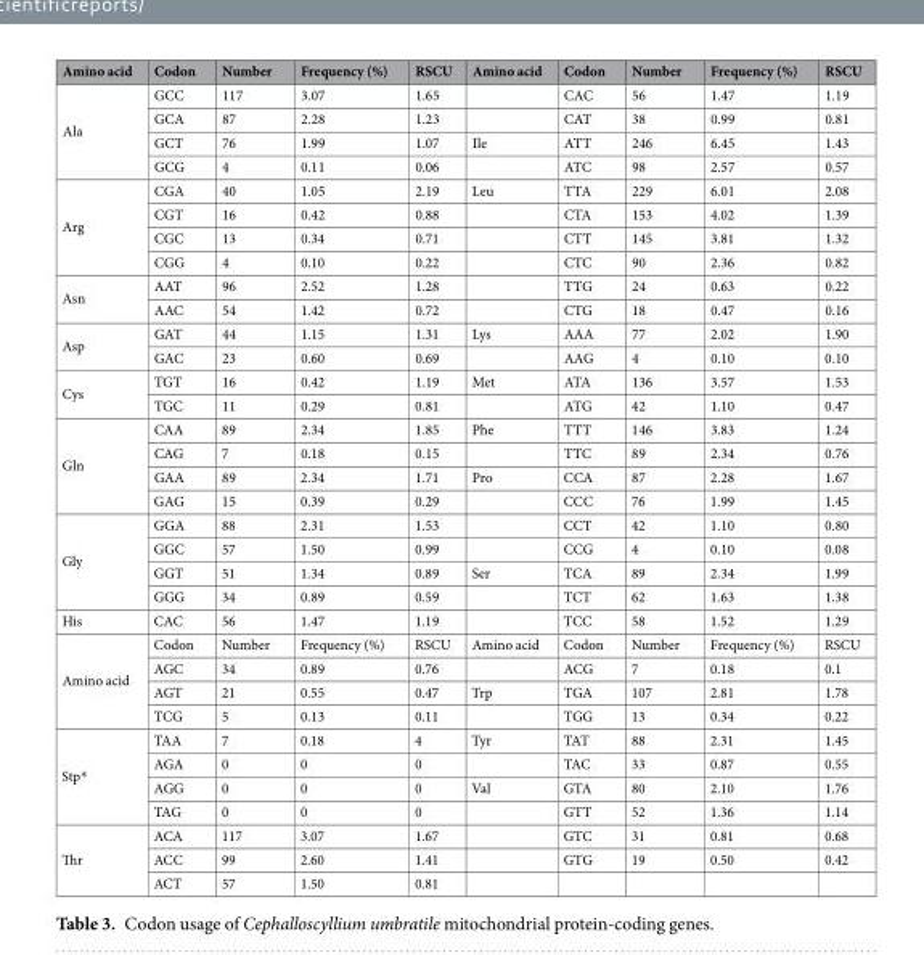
<table><thead><tr><td>Amino acid</td><td>Codon</td><td>Number</td><td>Frequency (%)</td><td>RSCU</td><td>Amino acid</td><td>Codon</td><td>Number</td><td>Frequency (%)</td><td>RSCU</td></tr></thead><tbody><tr><td rowspan="4">Ala</td><td>GCC</td><td>117</td><td>3.07</td><td>1.65</td><td></td><td>CAC</td><td>56</td><td>1.47</td><td>1.19</td></tr><tr><td>GCA</td><td>87</td><td>2.28</td><td>1.23</td><td></td><td>CAT</td><td>38</td><td>0.99</td><td>0.81</td></tr><tr><td>GCT</td><td>76</td><td>1.99</td><td>1.07</td><td>Ile</td><td>ATT</td><td>246</td><td>6.45</td><td>1.43</td></tr><tr><td>GCG</td><td>4</td><td>0.11</td><td>0.06</td><td></td><td>ATC</td><td>98</td><td>2.57</td><td>0.57</td></tr><tr><td rowspan="4">Arg</td><td>CGA</td><td>40</td><td>1.05</td><td>2.19</td><td>Leu</td><td>TTA</td><td>229</td><td>6.01</td><td>2.08</td></tr><tr><td>CGT</td><td>16</td><td>0.42</td><td>0.88</td><td></td><td>CTA</td><td>153</td><td>4.02</td><td>1.39</td></tr><tr><td>CGC</td><td>13</td><td>0.34</td><td>0.71</td><td></td><td>CTT</td><td>145</td><td>3.81</td><td>1.32</td></tr><tr><td>CGG</td><td>4</td><td>0.10</td><td>0.22</td><td></td><td>CTC</td><td>90</td><td>2.36</td><td>0.82</td></tr><tr><td rowspan="2">Asn</td><td>AAT</td><td>96</td><td>2.52</td><td>1.28</td><td></td><td>TTG</td><td>24</td><td>0.63</td><td>0.22</td></tr><tr><td>AAC</td><td>54</td><td>1.42</td><td>0.72</td><td></td><td>CTG</td><td>18</td><td>0.47</td><td>0.16</td></tr><tr><td rowspan="2">Asp</td><td>GAT</td><td>44</td><td>1.15</td><td>1.31</td><td>Lys</td><td>AAA</td><td>77</td><td>2.02</td><td>1.90</td></tr><tr><td>GAC</td><td>23</td><td>0.60</td><td>0.69</td><td></td><td>AAG</td><td>4</td><td>0.10</td><td>0.10</td></tr><tr><td rowspan="2">Cys</td><td>TGT</td><td>16</td><td>0.42</td><td>1.19</td><td>Met</td><td>ATA</td><td>136</td><td>3.57</td><td>1.53</td></tr><tr><td>TGC</td><td>11</td><td>0.29</td><td>0.81</td><td></td><td>ATG</td><td>42</td><td>1.10</td><td>0.47</td></tr><tr><td rowspan="4">Gln</td><td>CAA</td><td>89</td><td>2.34</td><td>1.85</td><td>Phe</td><td>TTT</td><td>146</td><td>3.83</td><td>1.24</td></tr><tr><td>CAG</td><td>7</td><td>0.18</td><td>0.15</td><td></td><td>TTC</td><td>89</td><td>2.34</td><td>0.76</td></tr><tr><td>GAA</td><td>89</td><td>2.34</td><td>1.71</td><td>Pro</td><td>CCA</td><td>87</td><td>2.28</td><td>1.67</td></tr><tr><td>GAG</td><td>15</td><td>0.39</td><td>0.29</td><td></td><td>CCC</td><td>76</td><td>1.99</td><td>1.45</td></tr><tr><td rowspan="4">Gly</td><td>GGA</td><td>88</td><td>2.31</td><td>1.53</td><td></td><td>CCT</td><td>42</td><td>1.10</td><td>0.80</td></tr><tr><td>GGC</td><td>57</td><td>1.50</td><td>0.99</td><td></td><td>CCG</td><td>4</td><td>0.10</td><td>0.08</td></tr><tr><td>GGT</td><td>51</td><td>1.34</td><td>0.89</td><td>Ser</td><td>TCA</td><td>89</td><td>2.34</td><td>1.99</td></tr><tr><td>GGG</td><td>34</td><td>0.89</td><td>0.59</td><td></td><td>TCT</td><td>62</td><td>1.63</td><td>1.38</td></tr><tr><td>His</td><td>CAC</td><td>56</td><td>1.47</td><td>1.19</td><td></td><td>TCC</td><td>58</td><td>1.52</td><td>1.29</td></tr><tr><td rowspan="4">Amino acid</td><td>Codon</td><td>Number</td><td>Frequency (%)</td><td>RSCU</td><td>Amino acid</td><td>Codon</td><td>Number</td><td>Frequency (%)</td><td>RSCU</td></tr><tr><td>AGC</td><td>34</td><td>0.89</td><td>0.76</td><td></td><td>ACG</td><td>7</td><td>0.18</td><td>0.1</td></tr><tr><td>AGT</td><td>21</td><td>0.55</td><td>0.47</td><td>Trp</td><td>TGA</td><td>107</td><td>2.81</td><td>1.78</td></tr><tr><td>TCG</td><td>5</td><td>0.13</td><td>0.11</td><td></td><td>TGG</td><td>13</td><td>0.34</td><td>0.22</td></tr><tr><td rowspan="4">Stp*</td><td>TAA</td><td>7</td><td>0.18</td><td>4</td><td>Tyr</td><td>TAT</td><td>88</td><td>2.31</td><td>1.45</td></tr><tr><td>AGA</td><td>0</td><td>0</td><td>0</td><td></td><td>TAC</td><td>33</td><td>0.87</td><td>0.55</td></tr><tr><td>AGG</td><td>0</td><td>0</td><td>0</td><td>Val</td><td>GTA</td><td>80</td><td>2.10</td><td>1.76</td></tr><tr><td>TAG</td><td>0</td><td>0</td><td>0</td><td></td><td>GTT</td><td>52</td><td>1.36</td><td>1.14</td></tr><tr><td rowspan="3">Thr</td><td>ACA</td><td>117</td><td>3.07</td><td>1.67</td><td></td><td>GTC</td><td>31</td><td>0.81</td><td>0.68</td></tr><tr><td>ACC</td><td>99</td><td>2.60</td><td>1.41</td><td></td><td>GTG</td><td>19</td><td>0.50</td><td>0.42</td></tr><tr><td>ACT</td><td>57</td><td>1.50</td><td>0.81</td><td></td><td></td><td></td><td></td><td></td></tr></tbody></table>